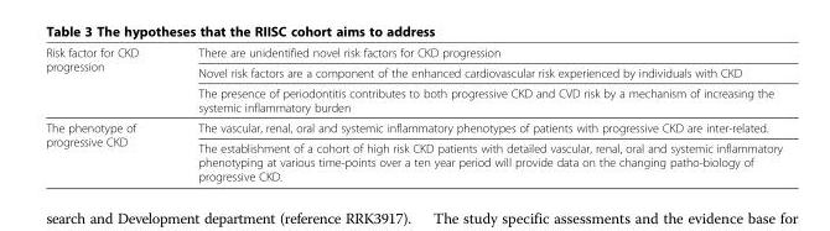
<table><tbody><tr><td rowspan="3">Risk factor for CKD progression</td><td>There are unidentified novel risk factors for CKD progression</td></tr><tr><td>Novel risk factors are a component of the enhanced cardiovascular risk experienced by individuals with CKD</td></tr><tr><td>The presence of periodontitis contributes to both progressive CKD and CVD risk by a mechanism of increasing the systemic inflammatory burden</td></tr><tr><td rowspan="2">The phenotype of progressive CKD</td><td>The vascular, renal, oral and systemic inflammatory phenotypes of patients with progressive CKD are inter-related.</td></tr><tr><td>The establishment of a cohort of high risk CKD patients with detailed vascular, renal, oral and systemic inflammatory phenotyping at various time-points over a ten year period will provide data on the changing patho-biology of progressive CKD.</td></tr></tbody></table>